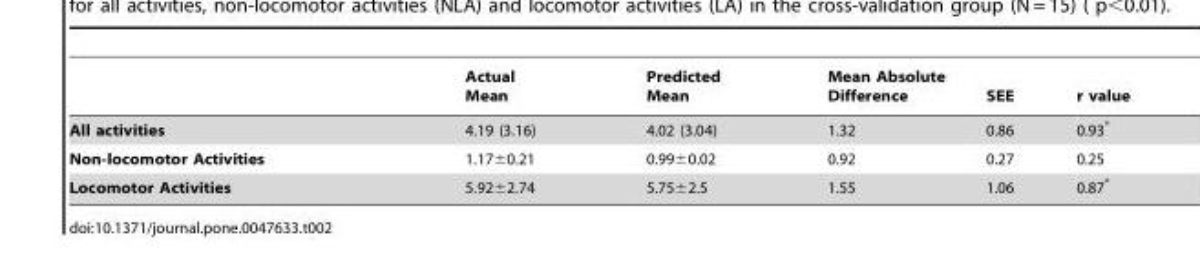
<table><thead><tr><td></td><td>Actual Mean</td><td>Predicted Mean</td><td>Mean Absolute Difference</td><td>SEE</td><td>r value</td></tr></thead><tbody><tr><td>All activities</td><td>4.19 (3.16)</td><td>4.02 (3.04)</td><td>1.32</td><td>0.86</td><td>0.93*</td></tr><tr><td>Non-locomotor Activities</td><td>1.17±0.21</td><td>0.99±0.02</td><td>0.92</td><td>0.27</td><td>0.25</td></tr><tr><td>Locomotor Activities</td><td>5.92±2.74</td><td>5.75±2.5</td><td>1.55</td><td>1.06</td><td>0.87*</td></tr></tbody></table>